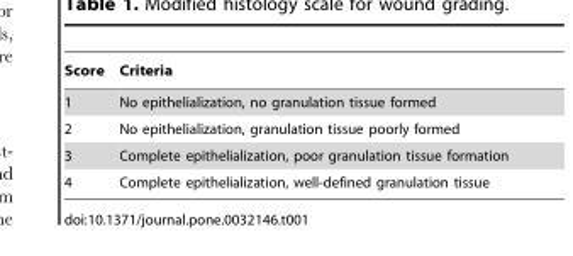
<table><thead><tr><td>Score</td><td>Criteria</td></tr></thead><tbody><tr><td>1</td><td>No epithelialization, no granulation tissue formed</td></tr><tr><td>2</td><td>No epithelialization, granulation tissue poorly formed</td></tr><tr><td>3</td><td>Complete epithelialization, poor granulation tissue formation</td></tr><tr><td>4</td><td>Complete epithelialization, well-defined granulation tissue</td></tr></tbody></table>